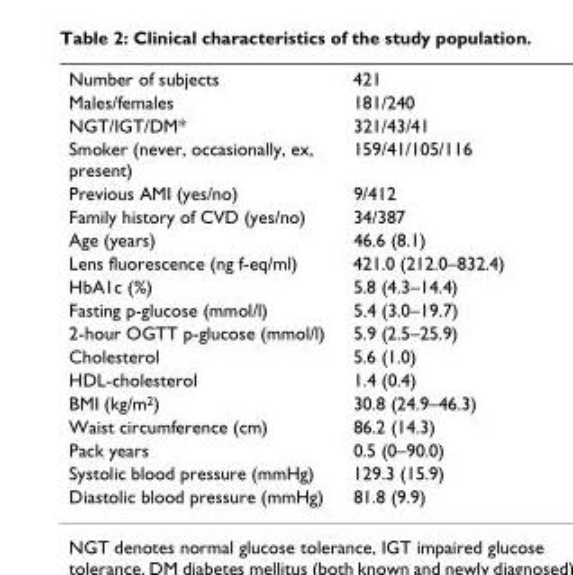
<table><tbody><tr><td>Number of subjects</td><td>421</td></tr><tr><td>Males/females</td><td>181/240</td></tr><tr><td>NGT/IGT/DM*</td><td>321/43/41</td></tr><tr><td>Smoker (never, occasionally, ex, present)</td><td>159/41/105/116</td></tr><tr><td>Previous AMI (yes/no)</td><td>9/412</td></tr><tr><td>Family history of CVD (yes/no)</td><td>34/387</td></tr><tr><td>Age (years)</td><td>46.6 (8.1)</td></tr><tr><td>Lens fluorescence (ng f-eq/ml)</td><td>421.0 (212.0–832.4)</td></tr><tr><td>HbA1c (%)</td><td>5.8 (4.3–14.4)</td></tr><tr><td>Fasting p-glucose (mmol/l)</td><td>5.4 (3.0–19.7)</td></tr><tr><td>2-hour OGTT p-glucose (mmol/l)</td><td>5.9 (2.5–25.9)</td></tr><tr><td>Cholesterol</td><td>5.6 (1.0)</td></tr><tr><td>HDL-cholesterol</td><td>1.4 (0.4)</td></tr><tr><td>BMI (kg/m<sup>2</sup>)</td><td>30.8 (24.9–46.3)</td></tr><tr><td>Waist circumference (cm)</td><td>86.2 (14.3)</td></tr><tr><td>Pack years</td><td>0.5 (0–90.0)</td></tr><tr><td>Systolic blood pressure (mmHg)</td><td>129.3 (15.9)</td></tr><tr><td>Diastolic blood pressure (mmHg)</td><td>81.8 (9.9)</td></tr></tbody></table>